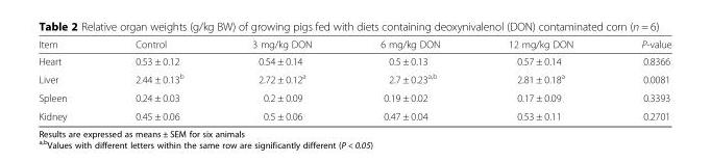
<table><thead><tr><td>Item</td><td>Control</td><td>3 mg/kg DON</td><td>6 mg/kg DON</td><td>12 mg/kg DON</td><td>P-value</td></tr></thead><tbody><tr><td>Heart</td><td>0.53 ± 0.12</td><td>0.54 ± 0.14</td><td>0.5 ± 0.13</td><td>0.57 ± 0.14</td><td>0.8366</td></tr><tr><td>Liver</td><td>2.44 ± 0.13<sup>b</sup></td><td>2.72 ± 0.12<sup>a</sup></td><td>2.7 ± 0.23<sup>a,b</sup></td><td>2.81 ± 0.18<sup>a</sup></td><td>0.0081</td></tr><tr><td>Spleen</td><td>0.24 ± 0.03</td><td>0.2 ± 0.09</td><td>0.19 ± 0.02</td><td>0.17 ± 0.09</td><td>0.3393</td></tr><tr><td>Kidney</td><td>0.45 ± 0.06</td><td>0.5 ± 0.06</td><td>0.47 ± 0.04</td><td>0.53 ± 0.11</td><td>0.2701</td></tr></tbody></table>